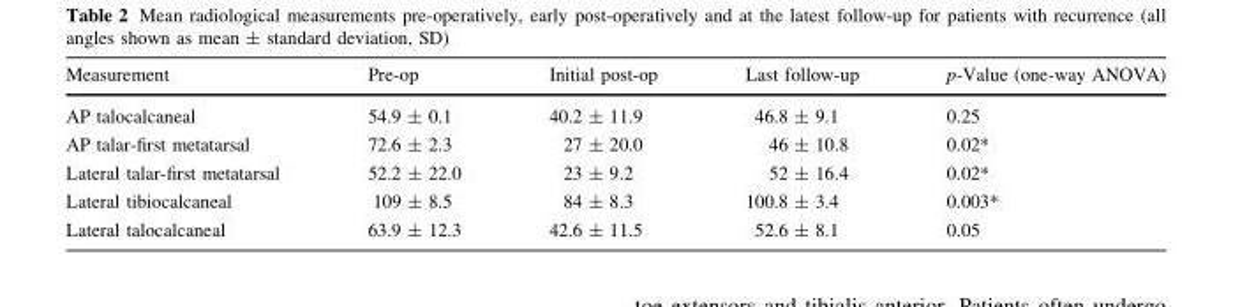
<table><thead><tr><td>Measurement</td><td>Pre-op</td><td>Initial post-op</td><td>Last follow-up</td><td>p-Value (one-way ANOVA)</td></tr></thead><tbody><tr><td>AP talocalcaneal</td><td>54.9 ± 0.1</td><td>40.2 ± 11.9</td><td>46.8 ± 9.1</td><td>0.25</td></tr><tr><td>AP talar-first metatarsal</td><td>72.6 ± 2.3</td><td>27 ± 20.0</td><td>46 ± 10.8</td><td>0.02*</td></tr><tr><td>Lateral talar-first metatarsal</td><td>52.2 ± 22.0</td><td>23 ± 9.2</td><td>52 ± 16.4</td><td>0.02*</td></tr><tr><td>Lateral tibiocalcaneal</td><td>109 ± 8.5</td><td>84 ± 8.3</td><td>100.8 ± 3.4</td><td>0.003*</td></tr><tr><td>Lateral talocalcaneal</td><td>63.9 ± 12.3</td><td>42.6 ± 11.5</td><td>52.6 ± 8.1</td><td>0.05</td></tr></tbody></table>